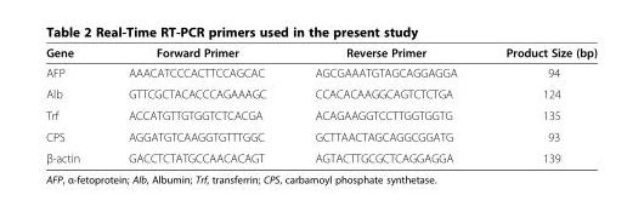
<table><thead><tr><td>Gene</td><td>Forward Primer</td><td>Reverse Primer</td><td>Product Size (bp)</td></tr></thead><tbody><tr><td>AFP</td><td>AAACATCCCACTTCCAGCAC</td><td>AGCGAAATGTAGCAGGAGGA</td><td>94</td></tr><tr><td>Alb</td><td>GTTCGCTACACCCAGAAAGC</td><td>CCACACAAGGCAGTCTCTGA</td><td>124</td></tr><tr><td>Trf</td><td>ACCATGTTGTGGTCTCACGA</td><td>ACAGAAGGTCCTTGGTGGTG</td><td>135</td></tr><tr><td>CPS</td><td>AGGATGTCAAGGTGTTTGGC</td><td>GCTTAACTAGCAGGCGGATG</td><td>93</td></tr><tr><td>β-actin</td><td>GACCTCTATGCCAACACAGT</td><td>AGTACTTGCGCTCAGGAGGA</td><td>139</td></tr></tbody></table>